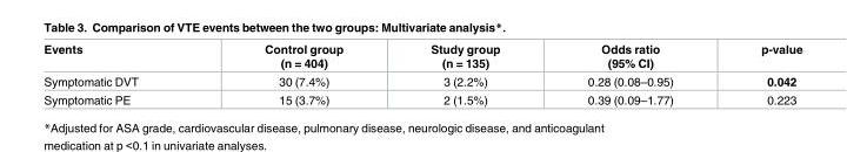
<table><thead><tr><td>Events</td><td>Control group (n = 404)</td><td>Study group (n = 135)</td><td>Odds ratio (95% CI)</td><td>p-value</td></tr></thead><tbody><tr><td>Symptomatic DVT</td><td>30 (7.4%)</td><td>3 (2.2%)</td><td>0.28 (0.08–0.95)</td><td>0.042</td></tr><tr><td>Symptomatic PE</td><td>15 (3.7%)</td><td>2 (1.5%)</td><td>0.39 (0.09–1.77)</td><td>0.223</td></tr></tbody></table>